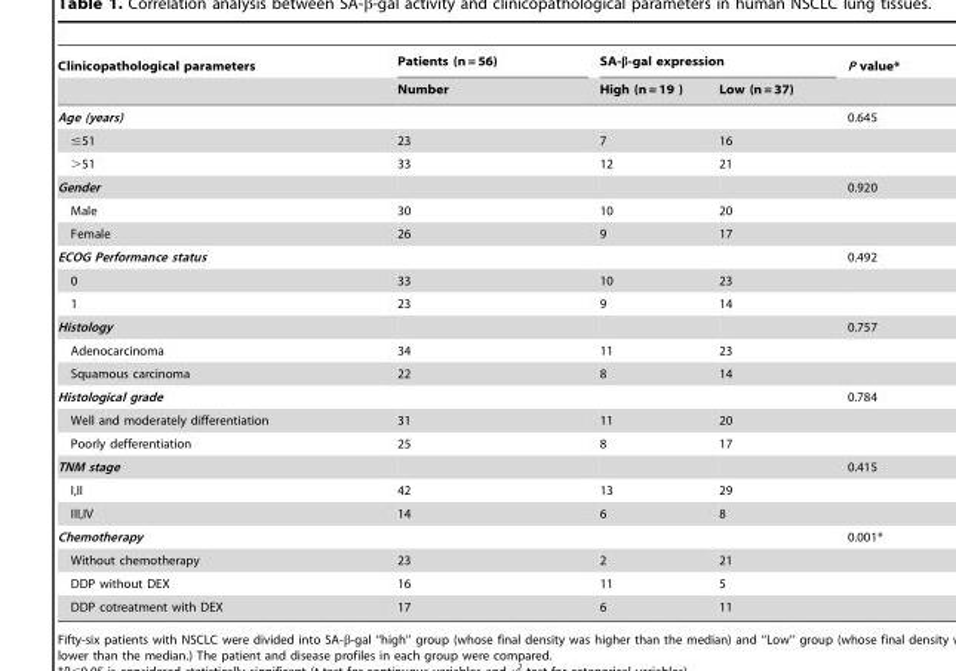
<table><thead><tr><td rowspan="2">Clinicopathological parameters</td><td rowspan="2">Patients (n = 56) Number</td><td colspan="2">SA-β-gal expression</td><td rowspan="2">P value*</td></tr><tr><td>High (n = 19 )</td><td>Low (n = 37)</td></tr></thead><tbody><tr><td>Age (years)</td><td></td><td></td><td></td><td>0.645</td></tr><tr><td>≤51</td><td>23</td><td>7</td><td>16</td><td></td></tr><tr><td>&gt;51</td><td>33</td><td>12</td><td>21</td><td></td></tr><tr><td>Gender</td><td></td><td></td><td></td><td>0.920</td></tr><tr><td>Male</td><td>30</td><td>10</td><td>20</td><td></td></tr><tr><td>Female</td><td>26</td><td>9</td><td>17</td><td></td></tr><tr><td>ECOG Performance status</td><td></td><td></td><td></td><td>0.492</td></tr><tr><td>0</td><td>33</td><td>10</td><td>23</td><td></td></tr><tr><td>1</td><td>23</td><td>9</td><td>14</td><td></td></tr><tr><td>Histology</td><td></td><td></td><td></td><td>0.757</td></tr><tr><td>Adenocarcinoma</td><td>34</td><td>11</td><td>23</td><td></td></tr><tr><td>Squamous carcinoma</td><td>22</td><td>8</td><td>14</td><td></td></tr><tr><td>Histological grade</td><td></td><td></td><td></td><td>0.784</td></tr><tr><td>Well and moderately differentiation</td><td>31</td><td>11</td><td>20</td><td></td></tr><tr><td>Poorly defferentiation</td><td>25</td><td>8</td><td>17</td><td></td></tr><tr><td>TNM stage</td><td></td><td></td><td></td><td>0.415</td></tr><tr><td>I,II</td><td>42</td><td>13</td><td>29</td><td></td></tr><tr><td>III,IV</td><td>14</td><td>6</td><td>8</td><td></td></tr><tr><td>Chemotherapy</td><td></td><td></td><td></td><td>0.001*</td></tr><tr><td>Without chemotherapy</td><td>23</td><td>2</td><td>21</td><td></td></tr><tr><td>DDP without DEX</td><td>16</td><td>11</td><td>5</td><td></td></tr><tr><td>DDP cotreatment with DEX</td><td>17</td><td>6</td><td>11</td><td></td></tr></tbody></table>